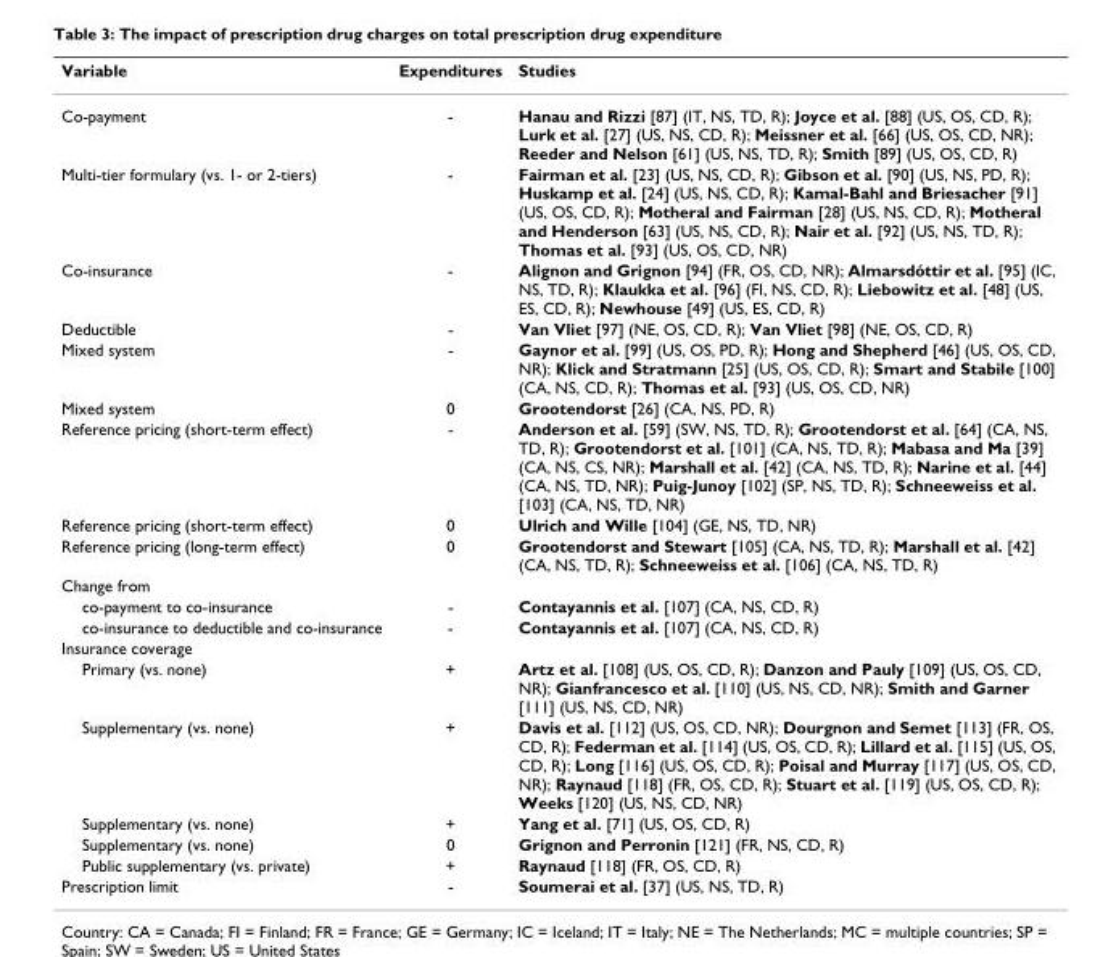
<table><thead><tr><td>Variable</td><td>Expenditures</td><td>Studies</td></tr></thead><tbody><tr><td>Co-payment</td><td>-</td><td>Hanau and Rizzi [87] (IT, NS, TD, R); Joyce et al. [88] (US, OS, CD, R); Lurk et al. [27] (US, NS, CD, R); Meissner et al. [66] (US, OS, CD, NR); Reeder and Nelson [61] (US, NS, TD, R); Smith [89] (US, OS, CD, R)</td></tr><tr><td>Multi-tier formulary (vs. 1- or 2-tiers)</td><td>-</td><td>Fairman et al. [23] (US, NS, CD, R); Gibson et al. [90] (US, NS, PD, R); Huskamp et al. [24] (US, NS, CD, R); Kamal-Bahl and Briesacher [91] (US, OS, CD, R); Motheral and Fairman [28] (US, NS, CD, R); Motheral and Henderson [63] (US, NS, CD, R); Nair et al. [92] (US, NS, TD, R); Thomas et al. [93] (US, OS, CD, NR)</td></tr><tr><td>Co-insurance</td><td>-</td><td>Alignon and Grignon [94] (FR, OS, CD, NR); Almarsdóttir et al. [95] (IC, NS, TD, R); Klaukka et al. [96] (FI, NS, CD, R); Liebowitz et al. [48] (US, ES, CD, R); Newhouse [49] (US, ES, CD, R)</td></tr><tr><td>Deductible</td><td>-</td><td>Van Vliet [97] (NE, OS, CD, R); Van Vliet [98] (NE, OS, CD, R)</td></tr><tr><td>Mixed system</td><td>-</td><td>Gaynor et al. [99] (US, OS, PD, R); Hong and Shepherd [46] (US, OS, CD, NR); Klick and Stratmann [25] (US, OS, CD, R); Smart and Stabile [100] (CA, NS, CD, R); Thomas et al. [93] (US, OS, CD, NR)</td></tr><tr><td>Mixed system</td><td>0</td><td>Grootendorst [26] (CA, NS, PD, R)</td></tr><tr><td>Reference pricing (short-term effect)</td><td>-</td><td>Anderson et al. [59] (SW, NS, TD, R); Grootendorst et al. [64] (CA, NS, TD, R); Grootendorst et al. [101] (CA, NS, TD, R); Mabasa and Ma [39] (CA, NS, CS, NR); Marshall et al. [42] (CA, NS, TD, R); Narine et al. [44] (CA, NS, TD, NR); Puig-Junoy [102] (SP, NS, TD, R); Schneeweiss et al. [103] (CA, NS, TD, NR)</td></tr><tr><td>Reference pricing (short-term effect)</td><td>0</td><td>Ulrich and Wille [104] (GE, NS, TD, NR)</td></tr><tr><td>Reference pricing (long-term effect)</td><td>0</td><td>Grootendorst and Stewart [105] (CA, NS, TD, R); Marshall et al. [42] (CA, NS, TD, R); Schneeweiss et al. [106] (CA, NS, TD, R)</td></tr><tr><td colspan="3">Change from</td></tr><tr><td>co-payment to co-insurance</td><td>-</td><td>Contayannis et al. [107] (CA, NS, CD, R)</td></tr><tr><td>co-insurance to deductible and co-insurance</td><td>-</td><td>Contayannis et al. [107] (CA, NS, CD, R)</td></tr><tr><td colspan="3">Insurance coverage</td></tr><tr><td>Primary (vs. none)</td><td>+</td><td>Artz et al. [108] (US, OS, CD, R); Danzon and Pauly [109] (US, OS, CD, NR); Gianfrancesco et al. [110] (US, NS, CD, NR); Smith and Garner [111] (US, NS, CD, NR)</td></tr><tr><td>Supplementary (vs. none)</td><td>+</td><td>Davis et al. [112] (US, OS, CD, NR); Dourgnon and Semet [113] (FR, OS, CD, R); Federman et al. [114] (US, OS, CD, R); Lillard et al. [115] (US, OS, CD, R); Long [116] (US, OS, CD, R); Poisal and Murray [117] (US, OS, CD, NR); Raynaud [118] (FR, OS, CD, R); Stuart et al. [119] (US, OS, CD, R); Weeks [120] (US, NS, CD, NR)</td></tr><tr><td>Supplementary (vs. none)</td><td>+</td><td>Yang et al. [71] (US, OS, CD, R)</td></tr><tr><td>Supplementary (vs. none)</td><td>0</td><td>Grignon and Perronin [121] (FR, NS, CD, R)</td></tr><tr><td>Public supplementary (vs. private)</td><td>+</td><td>Raynaud [118] (FR, OS, CD, R)</td></tr><tr><td>Prescription limit</td><td>-</td><td>Soumerai et al. [37] (US, NS, TD, R)</td></tr></tbody></table>